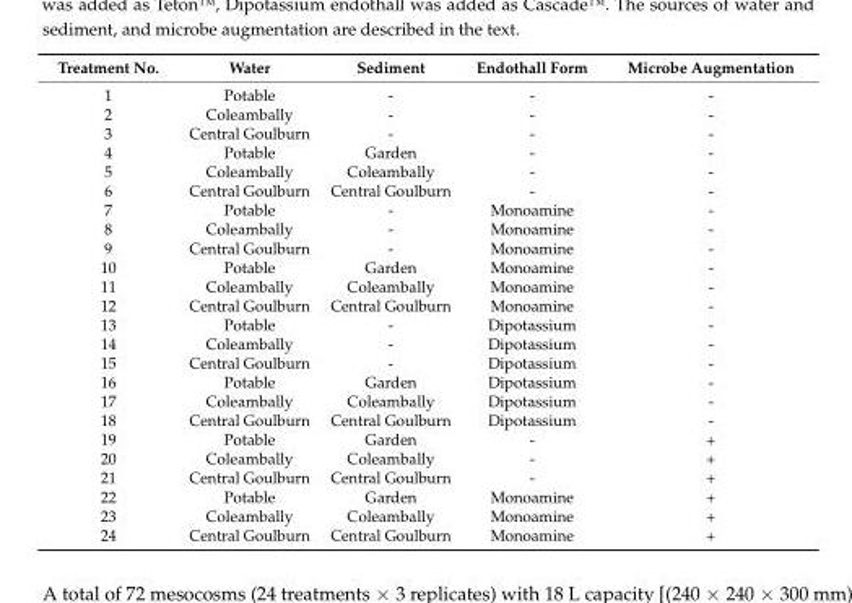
<table><thead><tr><td>Treatment No.</td><td>Water</td><td>Sediment</td><td>Endothall Form</td><td>Microbe Augmentation</td></tr></thead><tbody><tr><td>1</td><td>Potable</td><td>-</td><td>-</td><td>-</td></tr><tr><td>2</td><td>Coleambally</td><td>-</td><td>-</td><td>-</td></tr><tr><td>3</td><td>Central Goulburn</td><td>-</td><td>-</td><td>-</td></tr><tr><td>4</td><td>Potable</td><td>Garden</td><td>-</td><td>-</td></tr><tr><td>5</td><td>Coleambally</td><td>Coleambally</td><td>-</td><td>-</td></tr><tr><td>6</td><td>Central Goulburn</td><td>Central Goulburn</td><td>-</td><td>-</td></tr><tr><td>7</td><td>Potable</td><td>-</td><td>Monoamine</td><td>-</td></tr><tr><td>8</td><td>Coleambally</td><td>-</td><td>Monoamine</td><td>-</td></tr><tr><td>9</td><td>Central Goulburn</td><td>-</td><td>Monoamine</td><td>-</td></tr><tr><td>10</td><td>Potable</td><td>Garden</td><td>Monoamine</td><td>-</td></tr><tr><td>11</td><td>Coleambally</td><td>Coleambally</td><td>Monoamine</td><td>-</td></tr><tr><td>12</td><td>Central Goulburn</td><td>Central Goulburn</td><td>Monoamine</td><td>-</td></tr><tr><td>13</td><td>Potable</td><td>-</td><td>Dipotassium</td><td>-</td></tr><tr><td>14</td><td>Coleambally</td><td>-</td><td>Dipotassium</td><td>-</td></tr><tr><td>15</td><td>Central Goulburn</td><td>-</td><td>Dipotassium</td><td>-</td></tr><tr><td>16</td><td>Potable</td><td>Garden</td><td>Dipotassium</td><td>-</td></tr><tr><td>17</td><td>Coleambally</td><td>Coleambally</td><td>Dipotassium</td><td>-</td></tr><tr><td>18</td><td>Central Goulburn</td><td>Central Goulburn</td><td>Dipotassium</td><td>-</td></tr><tr><td>19</td><td>Potable</td><td>Garden</td><td>-</td><td>+</td></tr><tr><td>20</td><td>Coleambally</td><td>Coleambally</td><td>-</td><td>+</td></tr><tr><td>21</td><td>Central Goulburn</td><td>Central Goulburn</td><td>-</td><td>+</td></tr><tr><td>22</td><td>Potable</td><td>Garden</td><td>Monoamine</td><td>+</td></tr><tr><td>23</td><td>Coleambally</td><td>Coleambally</td><td>Monoamine</td><td>+</td></tr><tr><td>24</td><td>Central Goulburn</td><td>Central Goulburn</td><td>Monoamine</td><td>+</td></tr></tbody></table>